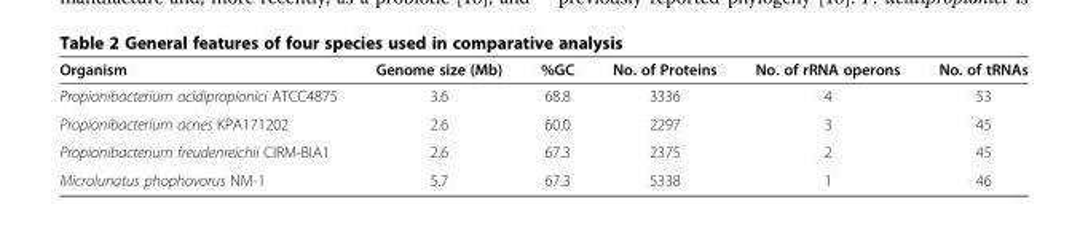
<table><thead><tr><td>Organism</td><td>Genome size (Mb)</td><td>%GC</td><td>No. of Proteins</td><td>No. of rRNA operons</td><td>No. of tRNAs</td></tr></thead><tbody><tr><td>Propionibacterium acidipropionici ATCC4875</td><td>3.6</td><td>68.8</td><td>3336</td><td>4</td><td>53</td></tr><tr><td>Propionibacterium acnes KPA171202</td><td>2.6</td><td>60.0</td><td>2297</td><td>3</td><td>45</td></tr><tr><td>Propionibacterium freudenreichii CIRM-BIA1</td><td>2.6</td><td>67.3</td><td>2375</td><td>2</td><td>45</td></tr><tr><td>Microlunatus phophovorus NM-1</td><td>5.7</td><td>67.3</td><td>5338</td><td>1</td><td>46</td></tr></tbody></table>